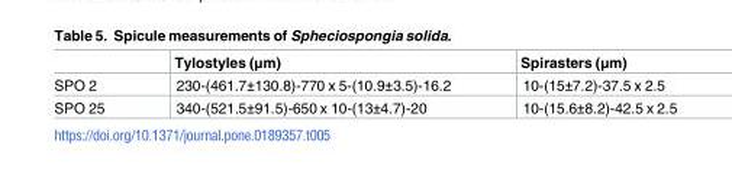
<table><thead><tr><td></td><td>Tylostyles (μm)</td><td>Spirasters (μm)</td></tr></thead><tbody><tr><td>SPO 2</td><td>230-(461.7±130.8)-770 x 5-(10.9±3.5)-16.2</td><td>10-(15±7.2)-37.5 x 2.5</td></tr><tr><td>SPO 25</td><td>340-(521.5±91.5)-650 x 10-(13±4.7)-20</td><td>10-(15.6±8.2)-42.5 x 2.5</td></tr></tbody></table>